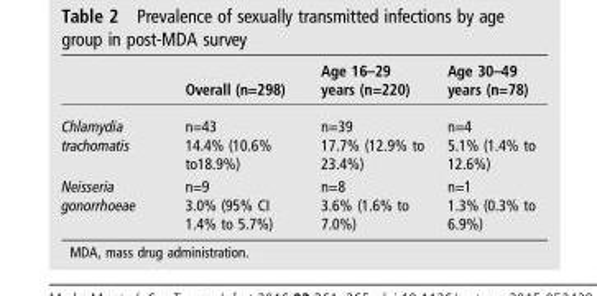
<table><thead><tr><td></td><td>Overall (n=298)</td><td>Age 16–29 years (n=220)</td><td>Age 30–49 years (n=78)</td></tr></thead><tbody><tr><td>Chlamydia trachomatis</td><td>n=43 14.4% (10.6% to18.9%)</td><td>n=39 17.7% (12.9% to 23.4%)</td><td>n=4 5.1% (1.4% to 12.6%)</td></tr><tr><td>Neisseria gonorrhoeae</td><td>n=9 3.0% (95% CI 1.4% to 5.7%)</td><td>n=8 3.6% (1.6% to 7.0%)</td><td>n=1 1.3% (0.3% to 6.9%)</td></tr></tbody></table>